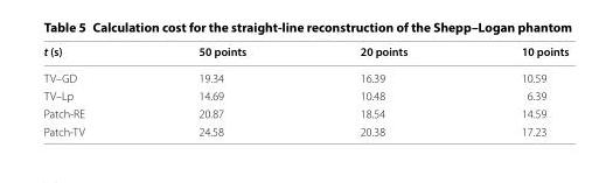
<table><thead><tr><td>t (s)</td><td>50 points</td><td>20 points</td><td>10 points</td></tr></thead><tbody><tr><td>TV–GD</td><td>19.34</td><td>16.39</td><td>10.59</td></tr><tr><td>TV–Lp</td><td>14.69</td><td>10.48</td><td>6.39</td></tr><tr><td>Patch-RE</td><td>20.87</td><td>18.54</td><td>14.59</td></tr><tr><td>Patch-TV</td><td>24.58</td><td>20.38</td><td>17.23</td></tr></tbody></table>